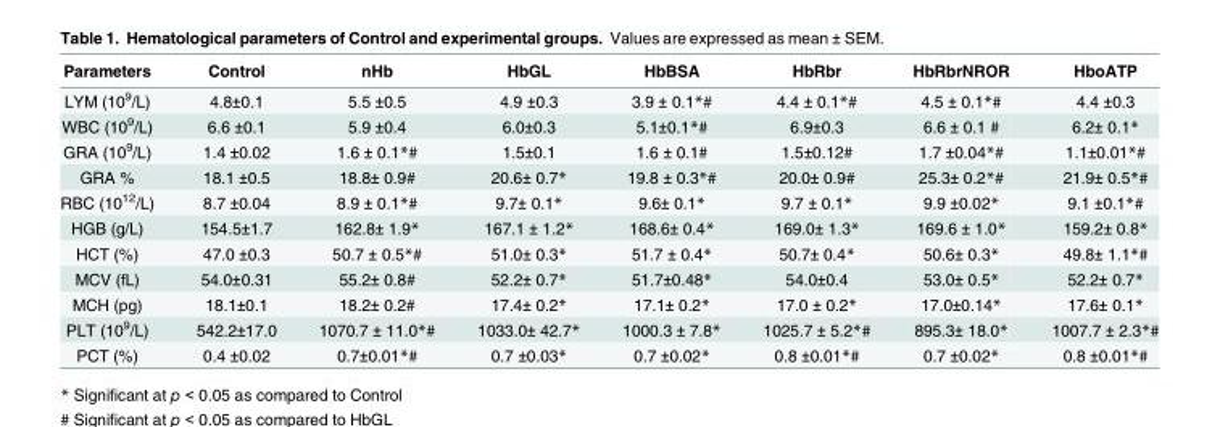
<table><thead><tr><td>Parameters</td><td>Control</td><td>nHb</td><td>HbGL</td><td>HbBSA</td><td>HbRbr</td><td>HbRbrNROR</td><td>HboATP</td></tr></thead><tbody><tr><td>LYM (10<sup>9</sup>/L)</td><td>4.8±0.1</td><td>5.5 ±0.5</td><td>4.9 ±0.3</td><td>3.9 ± 0.1*#</td><td>4.4 ± 0.1*#</td><td>4.5 ± 0.1*#</td><td>4.4 ±0.3</td></tr><tr><td>WBC (10<sup>9</sup>/L)</td><td>6.6 ±0.1</td><td>5.9 ±0.4</td><td>6.0±0.3</td><td>5.1±0.1*#</td><td>6.9±0.3</td><td>6.6 ± 0.1 #</td><td>6.2± 0.1*</td></tr><tr><td>GRA (10<sup>9</sup>/L)</td><td>1.4 ±0.02</td><td>1.6 ± 0.1*#</td><td>1.5±0.1</td><td>1.6 ± 0.1#</td><td>1.5±0.12#</td><td>1.7 ±0.04*#</td><td>1.1±0.01*#</td></tr><tr><td>GRA %</td><td>18.1 ±0.5</td><td>18.8± 0.9#</td><td>20.6± 0.7*</td><td>19.8 ± 0.3*#</td><td>20.0± 0.9#</td><td>25.3± 0.2*#</td><td>21.9± 0.5*#</td></tr><tr><td>RBC (10<sup>12</sup>/L)</td><td>8.7 ±0.04</td><td>8.9 ± 0.1*#</td><td>9.7± 0.1*</td><td>9.6± 0.1*</td><td>9.7 ± 0.1*</td><td>9.9 ±0.02*</td><td>9.1 ±0.1*#</td></tr><tr><td>HGB (g/L)</td><td>154.5±1.7</td><td>162.8± 1.9*</td><td>167.1 ± 1.2*</td><td>168.6± 0.4*</td><td>169.0± 1.3*</td><td>169.6 ± 1.0*</td><td>159.2± 0.8*</td></tr><tr><td>HCT (%)</td><td>47.0 ±0.3</td><td>50.7 ± 0.5*#</td><td>51.0± 0.3*</td><td>51.7 ± 0.4*</td><td>50.7± 0.4*</td><td>50.6± 0.3*</td><td>49.8± 1.1*#</td></tr><tr><td>MCV (fL)</td><td>54.0±0.31</td><td>55.2± 0.8#</td><td>52.2± 0.7*</td><td>51.7±0.48*</td><td>54.0±0.4</td><td>53.0± 0.5*</td><td>52.2± 0.7*</td></tr><tr><td>MCH (pg)</td><td>18.1±0.1</td><td>18.2± 0.2#</td><td>17.4± 0.2*</td><td>17.1± 0.2*</td><td>17.0 ± 0.2*</td><td>17.0±0.14*</td><td>17.6± 0.1*</td></tr><tr><td>PLT (10<sup>9</sup>/L)</td><td>542.2±17.0</td><td>1070.7 ± 11.0*#</td><td>1033.0± 42.7*</td><td>1000.3 ± 7.8*</td><td>1025.7 ± 5.2*#</td><td>895.3± 18.0*</td><td>1007.7 ± 2.3*#</td></tr><tr><td>PCT (%)</td><td>0.4 ±0.02</td><td>0.7±0.01*#</td><td>0.7 ±0.03*</td><td>0.7 ±0.02*</td><td>0.8 ±0.01*#</td><td>0.7 ±0.02*</td><td>0.8 ±0.01*#</td></tr></tbody></table>